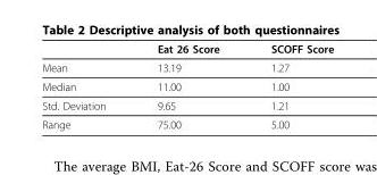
<table><thead><tr><td></td><td>Eat 26 Score</td><td>SCOFF Score</td></tr></thead><tbody><tr><td>Mean</td><td>13.19</td><td>1.27</td></tr><tr><td>Median</td><td>11.00</td><td>1.00</td></tr><tr><td>Std. Deviation</td><td>9.65</td><td>1.21</td></tr><tr><td>Range</td><td>75.00</td><td>5.00</td></tr></tbody></table>